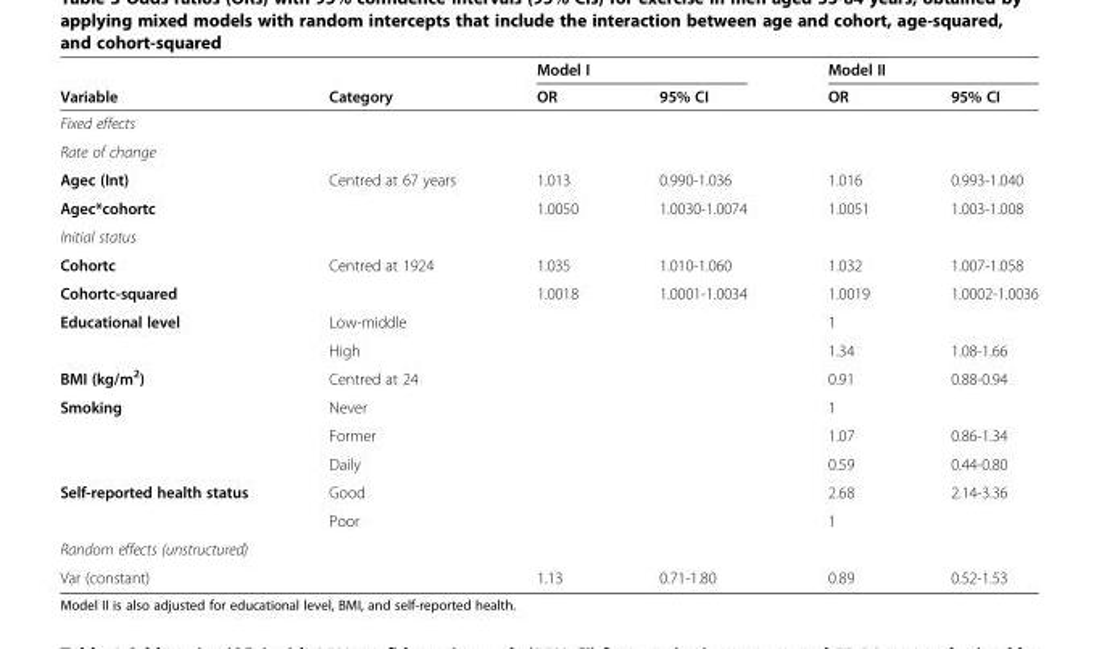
<table><thead><tr><td rowspan="2">Variable</td><td rowspan="2">Category</td><td colspan="2">Model I</td><td colspan="2">Model II</td></tr><tr><td>OR</td><td>95% CI</td><td>OR</td><td>95% CI</td></tr></thead><tbody><tr><td colspan="6">Fixed effects</td></tr><tr><td colspan="6">Rate of change</td></tr><tr><td>Agec (Int)</td><td>Centred at 67 years</td><td>1.013</td><td>0.990-1.036</td><td>1.016</td><td>0.993-1.040</td></tr><tr><td>Agec*cohortc</td><td></td><td>1.0050</td><td>1.0030-1.0074</td><td>1.0051</td><td>1.003-1.008</td></tr><tr><td colspan="6">Initial status</td></tr><tr><td>Cohortc</td><td>Centred at 1924</td><td>1.035</td><td>1.010-1.060</td><td>1.032</td><td>1.007-1.058</td></tr><tr><td>Cohortc-squared</td><td></td><td>1.0018</td><td>1.0001-1.0034</td><td>1.0019</td><td>1.0002-1.0036</td></tr><tr><td rowspan="2">Educational level</td><td>Low-middle</td><td></td><td></td><td>1</td><td></td></tr><tr><td>High</td><td></td><td></td><td>1.34</td><td>1.08-1.66</td></tr><tr><td>BMI (kg/m<sup>2</sup>)</td><td>Centred at 24</td><td></td><td></td><td>0.91</td><td>0.88-0.94</td></tr><tr><td rowspan="3">Smoking</td><td>Never</td><td></td><td></td><td>1</td><td></td></tr><tr><td>Former</td><td></td><td></td><td>1.07</td><td>0.86-1.34</td></tr><tr><td>Daily</td><td></td><td></td><td>0.59</td><td>0.44-0.80</td></tr><tr><td rowspan="2">Self-reported health status</td><td>Good</td><td></td><td></td><td>2.68</td><td>2.14-3.36</td></tr><tr><td>Poor</td><td></td><td></td><td>1</td><td></td></tr><tr><td colspan="6">Random effects (unstructured)</td></tr><tr><td colspan="2">Var (constant)</td><td>1.13</td><td>0.71-1.80</td><td>0.89</td><td>0.52-1.53</td></tr></tbody></table>